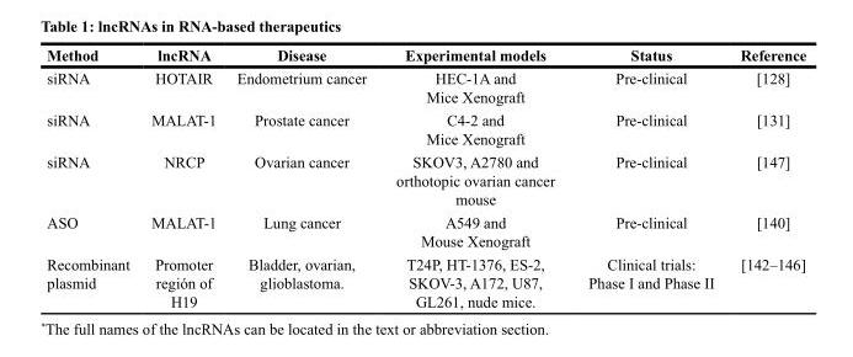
<table><thead><tr><td>Method</td><td>lncRNA</td><td>Disease</td><td>Experimental models</td><td>Status</td><td>Reference</td></tr></thead><tbody><tr><td>siRNA</td><td>HOTAIR</td><td>Endometrium cancer</td><td>HEC-1A and Mice Xenograft</td><td>Pre-clinical</td><td>[128]</td></tr><tr><td>siRNA</td><td>MALAT-1</td><td>Prostate cancer</td><td>C4-2 and Mice Xenograft</td><td>Pre-clinical</td><td>[131]</td></tr><tr><td>siRNA</td><td>NRCP</td><td>Ovarian cancer</td><td>SKOV3, A2780 and orthotopic ovarian cancer mouse</td><td>Pre-clinical</td><td>[147]</td></tr><tr><td>ASO</td><td>MALAT-1</td><td>Lung cancer</td><td>A549 and Mouse Xenograft</td><td>Pre-clinical</td><td>[140]</td></tr><tr><td>Recombinant plasmid</td><td>Promoter región of H19</td><td>Bladder, ovarian, glioblastoma.</td><td>T24P, HT-1376, ES-2, SKOV-3, A172, U87, GL261, nude mice.</td><td>Clinical trials: Phase I and Phase II</td><td>[142–146]</td></tr></tbody></table>